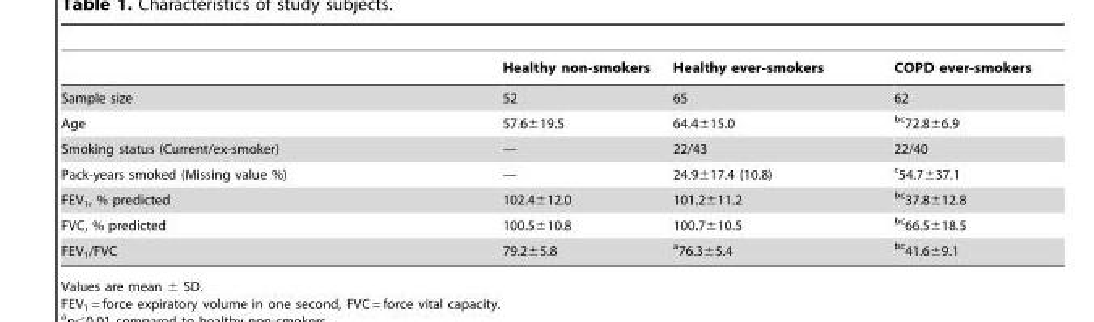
<table><thead><tr><td></td><td>Healthy non-smokers</td><td>Healthy ever-smokers</td><td>COPD ever-smokers</td></tr></thead><tbody><tr><td>Sample size</td><td>52</td><td>65</td><td>62</td></tr><tr><td>Age</td><td>57.6±19.5</td><td>64.4±15.0</td><td>bc72.8±6.9</td></tr><tr><td>Smoking status (Current/ex-smoker)</td><td>—</td><td>22/43</td><td>22/40</td></tr><tr><td>Pack-years smoked (Missing value %)</td><td>—</td><td>24.9±17.4 (10.8)</td><td>c54.7±37.1</td></tr><tr><td>FEV<sub>1</sub>, % predicted</td><td>102.4±12.0</td><td>101.2±11.2</td><td>bc37.8±12.8</td></tr><tr><td>FVC, % predicted</td><td>100.5±10.8</td><td>100.7±10.5</td><td>bc66.5±18.5</td></tr><tr><td>FEV<sub>1</sub>/FVC</td><td>79.2±5.8</td><td>a76.3±5.4</td><td>bc41.6±9.1</td></tr></tbody></table>